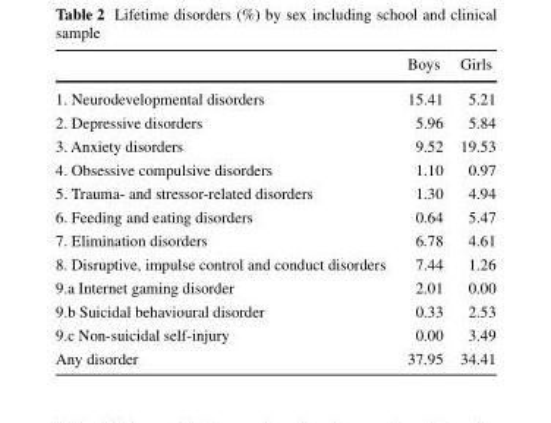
<table><thead><tr><td></td><td>Boys</td><td>Girls</td></tr></thead><tbody><tr><td>1. Neurodevelopmental disorders</td><td>15.41</td><td>5.21</td></tr><tr><td>2. Depressive disorders</td><td>5.96</td><td>5.84</td></tr><tr><td>3. Anxiety disorders</td><td>9.52</td><td>19.53</td></tr><tr><td>4. Obsessive compulsive disorders</td><td>1.10</td><td>0.97</td></tr><tr><td>5. Trauma- and stressor-related disorders</td><td>1.30</td><td>4.94</td></tr><tr><td>6. Feeding and eating disorders</td><td>0.64</td><td>5.47</td></tr><tr><td>7. Elimination disorders</td><td>6.78</td><td>4.61</td></tr><tr><td>8. Disruptive, impulse control and conduct disorders</td><td>7.44</td><td>1.26</td></tr><tr><td>9.a Internet gaming disorder</td><td>2.01</td><td>0.00</td></tr><tr><td>9.b Suicidal behavioural disorder</td><td>0.33</td><td>2.53</td></tr><tr><td>9.c Non-suicidal self-injury</td><td>0.00</td><td>3.49</td></tr><tr><td>Any disorder</td><td>37.95</td><td>34.41</td></tr></tbody></table>